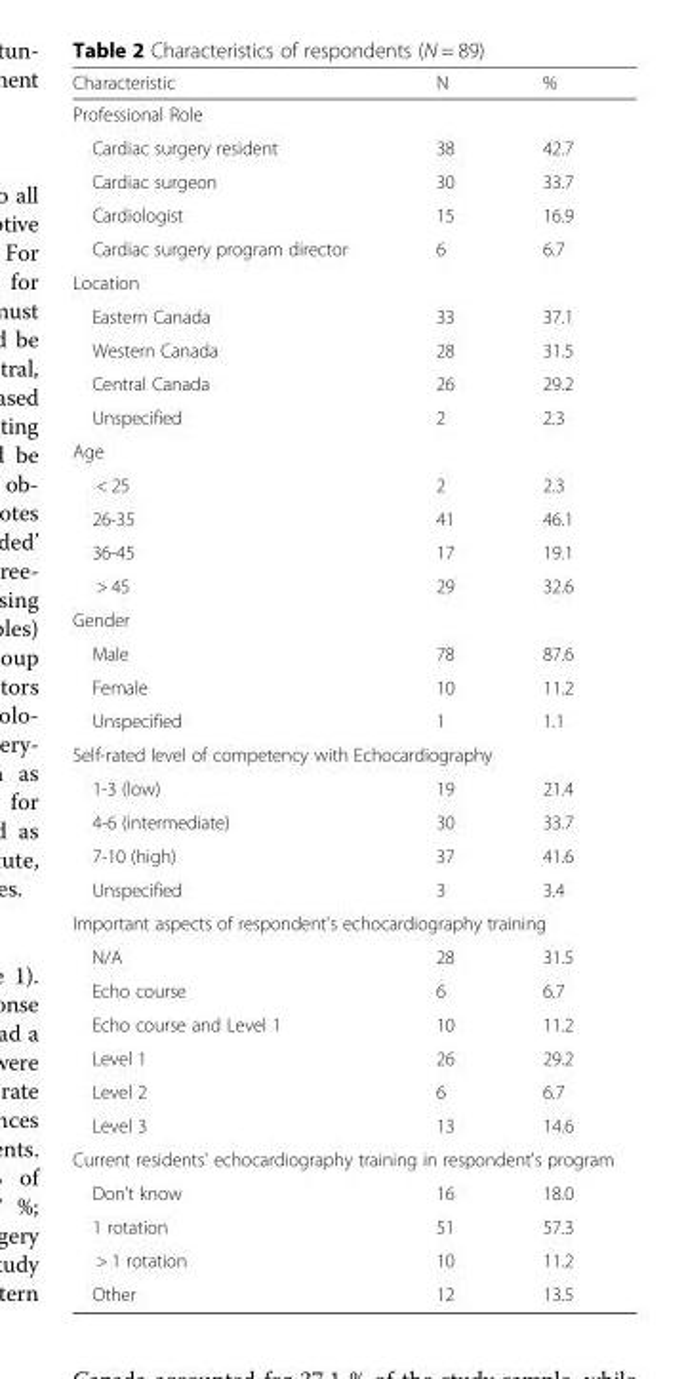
<table><thead><tr><td>Characteristic</td><td>N</td><td>%</td></tr></thead><tbody><tr><td colspan="3">Professional Role</td></tr><tr><td>Cardiac surgery resident</td><td>38</td><td>42.7</td></tr><tr><td>Cardiac surgeon</td><td>30</td><td>33.7</td></tr><tr><td>Cardiologist</td><td>15</td><td>16.9</td></tr><tr><td>Cardiac surgery program director</td><td>6</td><td>6.7</td></tr><tr><td colspan="3">Location</td></tr><tr><td>Eastern Canada</td><td>33</td><td>37.1</td></tr><tr><td>Western Canada</td><td>28</td><td>31.5</td></tr><tr><td>Central Canada</td><td>26</td><td>29.2</td></tr><tr><td>Unspecified</td><td>2</td><td>2.3</td></tr><tr><td colspan="3">Age</td></tr><tr><td>&lt; 25</td><td>2</td><td>2.3</td></tr><tr><td>26-35</td><td>41</td><td>46.1</td></tr><tr><td>36-45</td><td>17</td><td>19.1</td></tr><tr><td>&gt; 45</td><td>29</td><td>32.6</td></tr><tr><td colspan="3">Gender</td></tr><tr><td>Male</td><td>78</td><td>87.6</td></tr><tr><td>Female</td><td>10</td><td>11.2</td></tr><tr><td>Unspecified</td><td>1</td><td>1.1</td></tr><tr><td colspan="3">Self-rated level of competency with Echocardiography</td></tr><tr><td>1-3 (low)</td><td>19</td><td>21.4</td></tr><tr><td>4-6 (intermediate)</td><td>30</td><td>33.7</td></tr><tr><td>7-10 (high)</td><td>37</td><td>41.6</td></tr><tr><td>Unspecified</td><td>3</td><td>3.4</td></tr><tr><td colspan="3">Important aspects of respondent&#x27;s echocardiography training</td></tr><tr><td>N/A</td><td>28</td><td>31.5</td></tr><tr><td>Echo course</td><td>6</td><td>6.7</td></tr><tr><td>Echo course and Level 1</td><td>10</td><td>11.2</td></tr><tr><td>Level 1</td><td>26</td><td>29.2</td></tr><tr><td>Level 2</td><td>6</td><td>6.7</td></tr><tr><td>Level 3</td><td>13</td><td>14.6</td></tr><tr><td colspan="3">Current residents&#x27; echocardiography training in respondent&#x27;s program</td></tr><tr><td>Don’t know</td><td>16</td><td>18.0</td></tr><tr><td>1 rotation</td><td>51</td><td>57.3</td></tr><tr><td>&gt; 1 rotation</td><td>10</td><td>11.2</td></tr><tr><td>Other</td><td>12</td><td>13.5</td></tr></tbody></table>